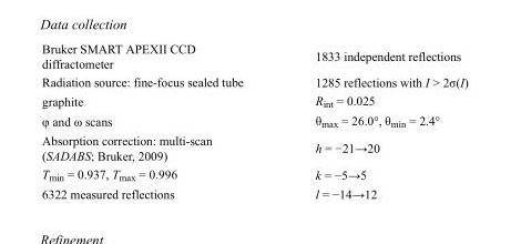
<table><tbody><tr><td>Bruker SMART APEXII CCD diffractometer</td><td>1833 independent reflections</td></tr><tr><td>Radiation source: fine-focus sealed tube</td><td>1285 reflections with I &gt; 2σ(I)</td></tr><tr><td>graphite</td><td>R<sub>int</sub> = 0.025</td></tr><tr><td>φ and ω scans</td><td>θ<sub>max</sub> = 26.0°, θ<sub>min</sub> = 2.4°</td></tr><tr><td>Absorption correction: multi-scan (SADABS; Bruker, 2009)</td><td>h = −21→20</td></tr><tr><td>T<sub>min</sub> = 0.937, T<sub>max</sub> = 0.996</td><td>k = −5→5</td></tr><tr><td>6322 measured reflections</td><td>l = −14→12</td></tr></tbody></table>